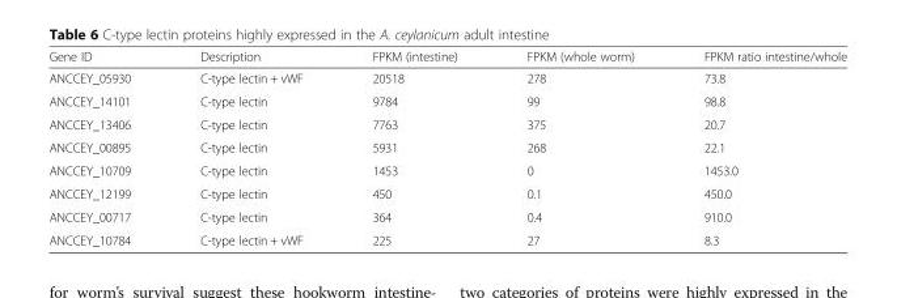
<table><thead><tr><td>Gene ID</td><td>Description</td><td>FPKM (intestine)</td><td>FPKM (whole worm)</td><td>FPKM ratio intestine/whole</td></tr></thead><tbody><tr><td>ANCCEY_05930</td><td>C-type lectin + vWF</td><td>20518</td><td>278</td><td>73.8</td></tr><tr><td>ANCCEY_14101</td><td>C-type lectin</td><td>9784</td><td>99</td><td>98.8</td></tr><tr><td>ANCCEY_13406</td><td>C-type lectin</td><td>7763</td><td>375</td><td>20.7</td></tr><tr><td>ANCCEY_00895</td><td>C-type lectin</td><td>5931</td><td>268</td><td>22.1</td></tr><tr><td>ANCCEY_10709</td><td>C-type lectin</td><td>1453</td><td>0</td><td>1453.0</td></tr><tr><td>ANCCEY_12199</td><td>C-type lectin</td><td>450</td><td>0.1</td><td>450.0</td></tr><tr><td>ANCCEY_00717</td><td>C-type lectin</td><td>364</td><td>0.4</td><td>910.0</td></tr><tr><td>ANCCEY_10784</td><td>C-type lectin + vWF</td><td>225</td><td>27</td><td>8.3</td></tr></tbody></table>